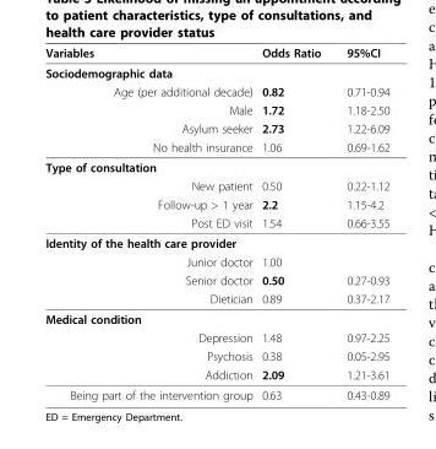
<table><thead><tr><td>Variables</td><td>Odds Ratio</td><td>95%CI</td></tr></thead><tbody><tr><td colspan="3">Sociodemographic data</td></tr><tr><td>Age (per additional decade)</td><td>0.82</td><td>0.71-0.94</td></tr><tr><td>Male</td><td>1.72</td><td>1.18-2.50</td></tr><tr><td>Asylum seeker</td><td>2.73</td><td>1.22-6.09</td></tr><tr><td>No health insurance</td><td>1.06</td><td>0.69-1.62</td></tr><tr><td colspan="3">Type of consultation</td></tr><tr><td>New patient</td><td>0.50</td><td>0.22-1.12</td></tr><tr><td>Follow-up &gt; 1 year</td><td>2.2</td><td>1.15-4.2</td></tr><tr><td>Post ED visit</td><td>1.54</td><td>0.66-3.55</td></tr><tr><td colspan="3">Identity of the health care provider</td></tr><tr><td>Junior doctor</td><td>1.00</td><td></td></tr><tr><td>Senior doctor</td><td>0.50</td><td>0.27-0.93</td></tr><tr><td>Dietician</td><td>0.89</td><td>0.37-2.17</td></tr><tr><td colspan="3">Medical condition</td></tr><tr><td>Depression</td><td>1.48</td><td>0.97-2.25</td></tr><tr><td>Psychosis</td><td>0.38</td><td>0.05-2.95</td></tr><tr><td>Addiction</td><td>2.09</td><td>1.21-3.61</td></tr><tr><td>Being part of the intervention group</td><td>0.63</td><td>0.43-0.89</td></tr></tbody></table>